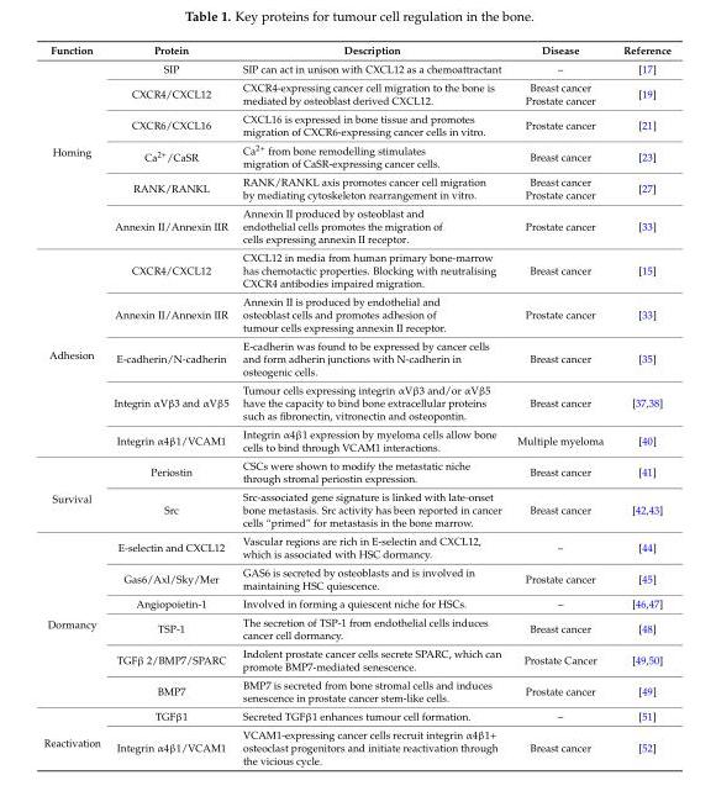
<table><thead><tr><td>Function</td><td>Protein</td><td>Description</td><td>Disease</td><td>Reference</td></tr></thead><tbody><tr><td rowspan="6">Homing</td><td>SIP</td><td>SIP can act in unison with CXCL12 as a chemoattractant</td><td>–</td><td>[17]</td></tr><tr><td>CXCR4/CXCL12</td><td>CXCR4-expressing cancer cell migration to the bone is mediated by osteoblast derived CXCL12.</td><td>Breast cancer Prostate cancer</td><td>[19]</td></tr><tr><td>CXCR6/CXCL16</td><td>CXCL16 is expressed in bone tissue and promotes migration of CXCR6-expressing cancer cells in vitro.</td><td>Prostate cancer</td><td>[21]</td></tr><tr><td>Ca<sup>2+</sup>/CaSR</td><td>Ca<sup>2+</sup> from bone remodelling stimulates migration of CaSR-expressing cancer cells.</td><td>Breast cancer</td><td>[23]</td></tr><tr><td>RANK/RANKL</td><td>RANK/RANKL axis promotes cancer cell migration by mediating cytoskeleton rearrangement in vitro.</td><td>Breast cancer Prostate cancer</td><td>[27]</td></tr><tr><td>Annexin II/Annexin IIR</td><td>Annexin II produced by osteoblast and endothelial cells promotes the migration of cells expressing annexin II receptor.</td><td>Prostate cancer</td><td>[33]</td></tr><tr><td rowspan="5">Adhesion</td><td>CXCR4/CXCL12</td><td>CXCL12 in media from human primary bone-marrow has chemotactic properties. Blocking with neutralising CXCR4 antibodies impaired migration.</td><td>Breast cancer</td><td>[15]</td></tr><tr><td>Annexin II/Annexin IIR</td><td>Annexin II is produced by endothelial and osteoblast cells and promotes adhesion of tumour cells expressing annexin II receptor.</td><td>Prostate cancer</td><td>[33]</td></tr><tr><td>E-cadherin/N-cadherin</td><td>E-cadherin was found to be expressed by cancer cells and form adherin junctions with N-cadherin in osteogenic cells.</td><td>Breast cancer</td><td>[35]</td></tr><tr><td>Integrin αVβ3 and αVβ5</td><td>Tumour cells expressing integrin αVβ3 and/or αVβ5 have the capacity to bind bone extracellular proteins such as fibronectin, vitronectin and osteopontin.</td><td>Breast cancer</td><td>[37,38]</td></tr><tr><td>Integrin α4β1/VCAM1</td><td>Integrin α4β1 expression by myeloma cells allow bone cells to bind through VCAM1 interactions.</td><td>Multiple myeloma</td><td>[40]</td></tr><tr><td rowspan="2">Survival</td><td>Periostin</td><td>CSCs were shown to modify the metastatic niche through stromal periostin expression.</td><td>Breast cancer</td><td>[41]</td></tr><tr><td>Src</td><td>Src-associated gene signature is linked with late-onset bone metastasis. Src activity has been reported in cancer cells “primed” for metastasis in the bone marrow.</td><td>Breast cancer</td><td>[42,43]</td></tr><tr><td rowspan="6">Dormancy</td><td>E-selectin and CXCL12</td><td>Vascular regions are rich in E-selectin and CXCL12, which is associated with HSC dormancy.</td><td>–</td><td>[44]</td></tr><tr><td>Gas6/Axl/Sky/Mer</td><td>GAS6 is secreted by osteoblasts and is involved in maintaining HSC quiescence.</td><td>Prostate cancer</td><td>[45]</td></tr><tr><td>Angiopoietin-1</td><td>Involved in forming a quiescent niche for HSCs.</td><td>–</td><td>[46,47]</td></tr><tr><td>TSP-1</td><td>The secretion of TSP-1 from endothelial cells induces cancer cell dormancy.</td><td>Breast cancer</td><td>[48]</td></tr><tr><td>TGFβ 2/BMP7/SPARC</td><td>Indolent prostate cancer cells secrete SPARC, which can promote BMP7-mediated senescence.</td><td>Prostate Cancer</td><td>[49,50]</td></tr><tr><td>BMP7</td><td>BMP7 is secreted from bone stromal cells and induces senescence in prostate cancer stem-like cells.</td><td>Prostate cancer</td><td>[49]</td></tr><tr><td rowspan="2">Reactivation</td><td>TGFβ1</td><td>Secreted TGFβ1 enhances tumour cell formation.</td><td>–</td><td>[51]</td></tr><tr><td>Integrin α4β1/VCAM1</td><td>VCAM1-expressing cancer cells recruit integrin α4β1+ osteoclast progenitors and initiate reactivation through the vicious cycle.</td><td>Breast cancer</td><td>[52]</td></tr></tbody></table>